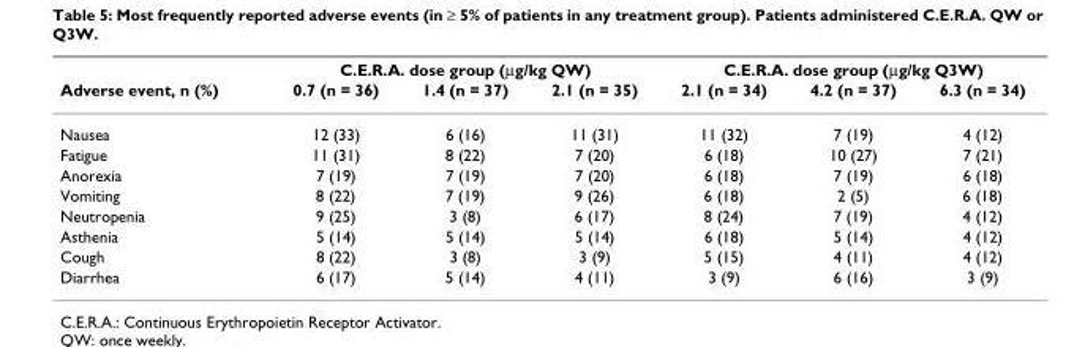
<table><thead><tr><td rowspan="2">Adverse event, n (%)</td><td colspan="3">C.E.R.A. dose group (μg/kg QW)</td><td colspan="3">C.E.R.A. dose group (μg/kg Q3W)</td></tr><tr><td>0.7 (n = 36)</td><td>1.4 (n = 37)</td><td>2.1 (n = 35)</td><td>2.1 (n = 34)</td><td>4.2 (n = 37)</td><td>6.3 (n = 34)</td></tr></thead><tbody><tr><td>Nausea</td><td>12 (33)</td><td>6 (16)</td><td>11 (31)</td><td>11 (32)</td><td>7 (19)</td><td>4 (12)</td></tr><tr><td>Fatigue</td><td>11 (31)</td><td>8 (22)</td><td>7 (20)</td><td>6 (18)</td><td>10 (27)</td><td>7 (21)</td></tr><tr><td>Anorexia</td><td>7 (19)</td><td>7 (19)</td><td>7 (20)</td><td>6 (18)</td><td>7 (19)</td><td>6 (18)</td></tr><tr><td>Vomiting</td><td>8 (22)</td><td>7 (19)</td><td>9 (26)</td><td>6 (18)</td><td>2 (5)</td><td>6 (18)</td></tr><tr><td>Neutropenia</td><td>9 (25)</td><td>3 (8)</td><td>6 (17)</td><td>8 (24)</td><td>7 (19)</td><td>4 (12)</td></tr><tr><td>Asthenia</td><td>5 (14)</td><td>5 (14)</td><td>5 (14)</td><td>6 (18)</td><td>5 (14)</td><td>4 (12)</td></tr><tr><td>Cough</td><td>8 (22)</td><td>3 (8)</td><td>3 (9)</td><td>5 (15)</td><td>4 (11)</td><td>4 (12)</td></tr><tr><td>Diarrhea</td><td>6 (17)</td><td>5 (14)</td><td>4 (11)</td><td>3 (9)</td><td>6 (16)</td><td>3 (9)</td></tr></tbody></table>